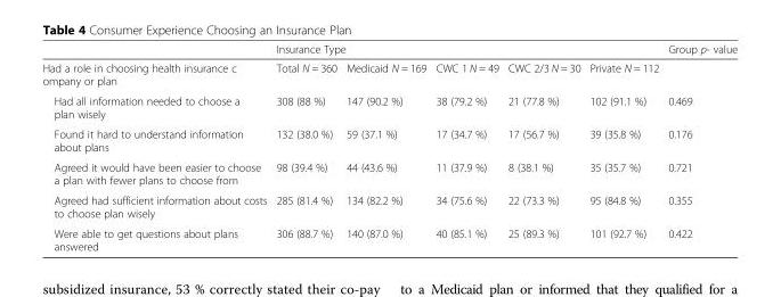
<table><thead><tr><td rowspan="2">Had a role in choosing health insurance c ompany or plan</td><td colspan="5">Insurance Type</td><td rowspan="2">Group p- value</td></tr><tr><td>Total N = 360</td><td>Medicaid N = 169</td><td>CWC 1 N = 49</td><td>CWC 2/3 N = 30</td><td>Private N = 112</td></tr></thead><tbody><tr><td>Had all information needed to choose a plan wisely</td><td>308 (88 %)</td><td>147 (90.2 %)</td><td>38 (79.2 %)</td><td>21 (77.8 %)</td><td>102 (91.1 %)</td><td>0.469</td></tr><tr><td>Found it hard to understand information about plans</td><td>132 (38.0 %)</td><td>59 (37.1 %)</td><td>17 (34.7 %)</td><td>17 (56.7 %)</td><td>39 (35.8 %)</td><td>0.176</td></tr><tr><td>Agreed it would have been easier to choose a plan with fewer plans to choose from</td><td>98 (39.4 %)</td><td>44 (43.6 %)</td><td>11 (37.9 %)</td><td>8 (38.1 %)</td><td>35 (35.7 %)</td><td>0.721</td></tr><tr><td>Agreed had sufficient information about costs to choose plan wisely</td><td>285 (81.4 %)</td><td>134 (82.2 %)</td><td>34 (75.6 %)</td><td>22 (73.3 %)</td><td>95 (84.8 %)</td><td>0.355</td></tr><tr><td>Were able to get questions about plans answered</td><td>306 (88.7 %)</td><td>140 (87.0 %)</td><td>40 (85.1 %)</td><td>25 (89.3 %)</td><td>101 (92.7 %)</td><td>0.422</td></tr></tbody></table>